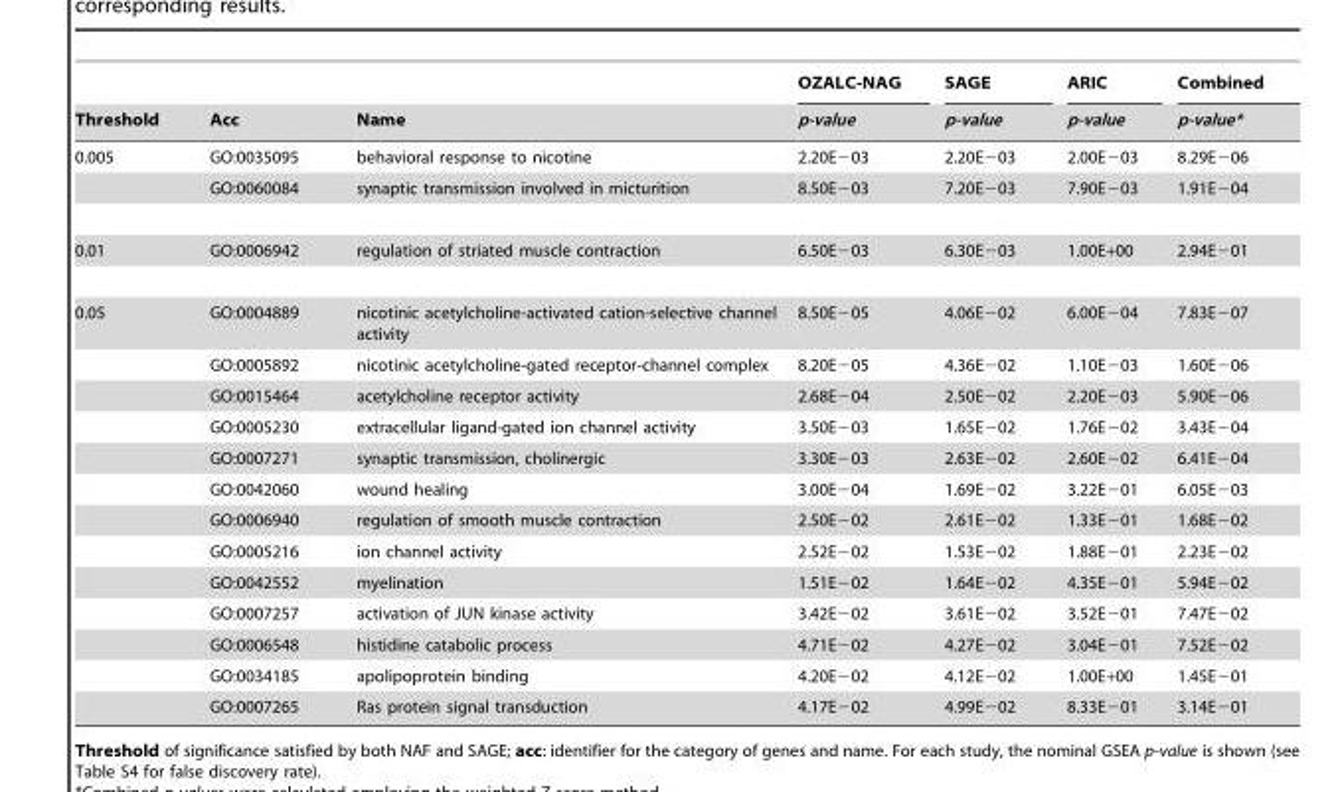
<table><thead><tr><td rowspan="2">Threshold</td><td rowspan="2">Acc</td><td rowspan="2">Name</td><td rowspan="2">OZALC-NAG p-value</td><td rowspan="2">SAGE p-value</td><td rowspan="2">ARIC p-value</td><td rowspan="2">Combined p-value*</td></tr><tr></tr></thead><tbody><tr><td rowspan="2">0.005</td><td>GO:0035095</td><td>behavioral response to nicotine</td><td>2.20E−03</td><td>2.20E−03</td><td>2.00E−03</td><td>8.29E−06</td></tr><tr><td>GO:0060084</td><td>synaptic transmission involved in micturition</td><td>8.50E−03</td><td>7.20E−03</td><td>7.90E−03</td><td>1.91E−04</td></tr><tr><td>0.01</td><td>GO:0006942</td><td>regulation of striated muscle contraction</td><td>6.50E−03</td><td>6.30E−03</td><td>1.00E+00</td><td>2.94E−01</td></tr><tr><td rowspan="13">0.05</td><td>GO:0004889</td><td>nicotinic acetylcholine-activated cation-selective channel activity</td><td>8.50E−05</td><td>4.06E−02</td><td>6.00E−04</td><td>7.83E−07</td></tr><tr><td>GO:0005892</td><td>nicotinic acetylcholine-gated receptor-channel complex</td><td>8.20E−05</td><td>4.36E−02</td><td>1.10E−03</td><td>1.60E−06</td></tr><tr><td>GO:0015464</td><td>acetylcholine receptor activity</td><td>2.68E−04</td><td>2.50E−02</td><td>2.20E−03</td><td>5.90E−06</td></tr><tr><td>GO:0005230</td><td>extracellular ligand-gated ion channel activity</td><td>3.50E−03</td><td>1.65E−02</td><td>1.76E−02</td><td>3.43E−04</td></tr><tr><td>GO:0007271</td><td>synaptic transmission, cholinergic</td><td>3.30E−03</td><td>2.63E−02</td><td>2.60E−02</td><td>6.41E−04</td></tr><tr><td>GO:0042060</td><td>wound healing</td><td>3.00E−04</td><td>1.69E−02</td><td>3.22E−01</td><td>6.05E−03</td></tr><tr><td>GO:0006940</td><td>regulation of smooth muscle contraction</td><td>2.50E−02</td><td>2.61E−02</td><td>1.33E−01</td><td>1.68E−02</td></tr><tr><td>GO:0005216</td><td>ion channel activity</td><td>2.52E−02</td><td>1.53E−02</td><td>1.88E−01</td><td>2.23E−02</td></tr><tr><td>GO:0042552</td><td>myelination</td><td>1.51E−02</td><td>1.64E−02</td><td>4.35E−01</td><td>5.94E−02</td></tr><tr><td>GO:0007257</td><td>activation of JUN kinase activity</td><td>3.42E−02</td><td>3.61E−02</td><td>3.52E−01</td><td>7.47E−02</td></tr><tr><td>GO:0006548</td><td>histidine catabolic process</td><td>4.71E−02</td><td>4.27E−02</td><td>3.04E−01</td><td>7.52E−02</td></tr><tr><td>GO:0034185</td><td>apolipoprotein binding</td><td>4.20E−02</td><td>4.12E−02</td><td>1.00E+00</td><td>1.45E−01</td></tr><tr><td>GO:0007265</td><td>Ras protein signal transduction</td><td>4.17E−02</td><td>4.99E−02</td><td>8.33E−01</td><td>3.14E−01</td></tr></tbody></table>